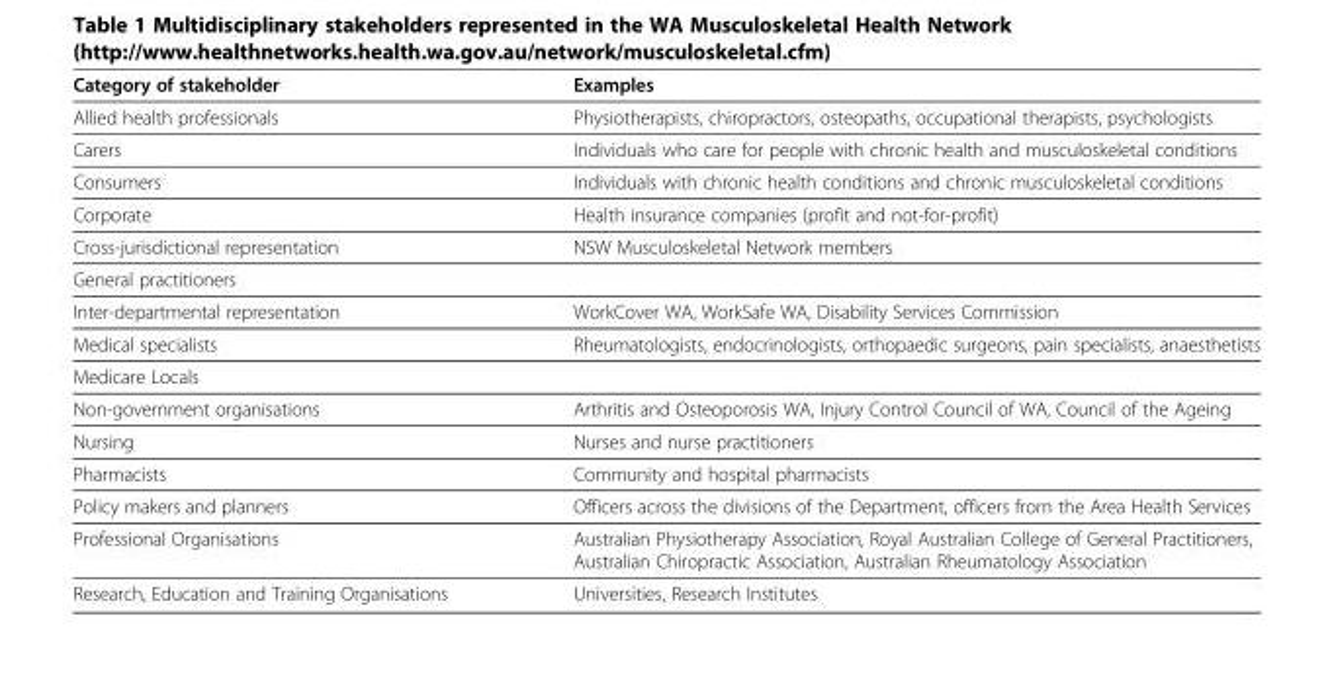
<table><thead><tr><td>Category of stakeholder</td><td>Examples</td></tr></thead><tbody><tr><td>Allied health professionals</td><td>Physiotherapists, chiropractors, osteopaths, occupational therapists, psychologists</td></tr><tr><td>Carers</td><td>Individuals who care for people with chronic health and musculoskeletal conditions</td></tr><tr><td>Consumers</td><td>Individuals with chronic health conditions and chronic musculoskeletal conditions</td></tr><tr><td>Corporate</td><td>Health insurance companies (profit and not-for-profit)</td></tr><tr><td>Cross-jurisdictional representation</td><td>NSW Musculoskeletal Network members</td></tr><tr><td colspan="2">General practitioners</td></tr><tr><td>Inter-departmental representation</td><td>WorkCover WA, WorkSafe WA, Disability Services Commission</td></tr><tr><td>Medical specialists</td><td>Rheumatologists, endocrinologists, orthopaedic surgeons, pain specialists, anaesthetists</td></tr><tr><td colspan="2">Medicare Locals</td></tr><tr><td>Non-government organisations</td><td>Arthritis and Osteoporosis WA, Injury Control Council of WA, Council of the Ageing</td></tr><tr><td>Nursing</td><td>Nurses and nurse practitioners</td></tr><tr><td>Pharmacists</td><td>Community and hospital pharmacists</td></tr><tr><td>Policy makers and planners</td><td>Officers across the divisions of the Department, officers from the Area Health Services</td></tr><tr><td>Professional Organisations</td><td>Australian Physiotherapy Association, Royal Australian College of General Practitioners, Australian Chiropractic Association, Australian Rheumatology Association</td></tr><tr><td>Research, Education and Training Organisations</td><td>Universities, Research Institutes</td></tr></tbody></table>